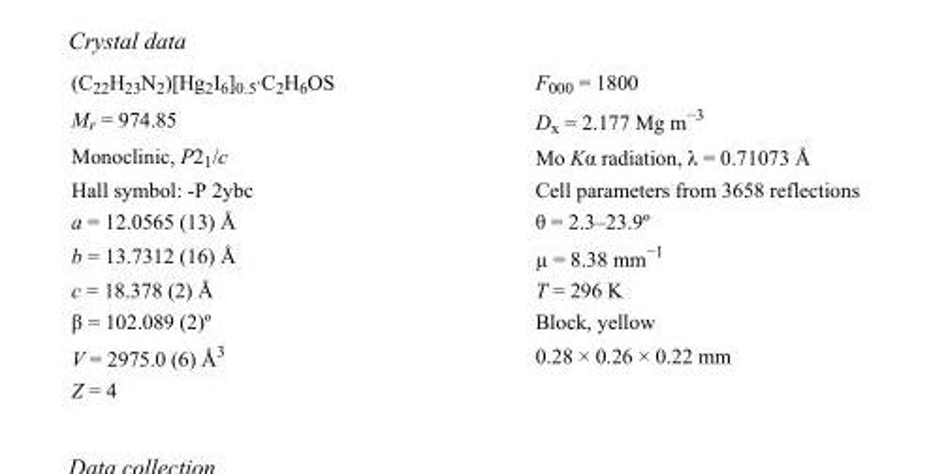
<table><tbody><tr><td>(C<sub>22</sub>H<sub>23</sub>N<sub>2</sub>)[Hg<sub>2</sub>I<sub>6</sub>]<sub>0.5</sub>·C<sub>2</sub>H<sub>6</sub>OS</td><td>F000 = 1800</td></tr><tr><td>M<sub>r</sub> = 974.85</td><td>D<sub>x</sub> = 2.177 Mg m<sup>−3</sup></td></tr><tr><td>Monoclinic, P2<sub>1</sub>/c</td><td>Mo Kα radiation, λ = 0.71073 Å</td></tr><tr><td>Hall symbol: -P 2ybc</td><td>Cell parameters from 3658 reflections</td></tr><tr><td>a = 12.0565 (13) Å</td><td>θ = 2.3–23.9º</td></tr><tr><td>b = 13.7312 (16) Å</td><td>µ = 8.38 mm<sup>−1</sup></td></tr><tr><td>c = 18.378 (2) Å</td><td>T = 296 K</td></tr><tr><td>β = 102.089 (2)º</td><td>Block, yellow</td></tr><tr><td>V = 2975.0 (6) Å<sup>3</sup></td><td>0.28 × 0.26 × 0.22 mm</td></tr><tr><td>Z = 4</td><td></td></tr></tbody></table>